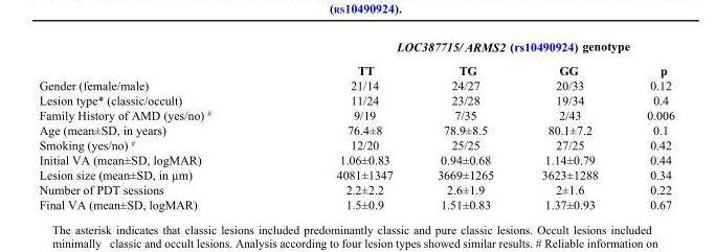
<table><thead><tr><td rowspan="2"></td><td colspan="4">LOC387715/ ARMS2 (rs10490924) genotype</td></tr><tr><td>TT</td><td>TG</td><td>GG</td><td>p</td></tr></thead><tbody><tr><td>Gender (female/male)</td><td>21/14</td><td>24/27</td><td>20/33</td><td>0.12</td></tr><tr><td>Lesion type* (classic/occult)</td><td>11/24</td><td>23/28</td><td>19/34</td><td>0.4</td></tr><tr><td>Family History of AMD (yes/no) <sup>#</sup></td><td>9/19</td><td>7/35</td><td>2/43</td><td>0.006</td></tr><tr><td>Age (mean±SD, in years)</td><td>76.4±8</td><td>78.9±8.5</td><td>80.1±7.2</td><td>0.1</td></tr><tr><td>Smoking (yes/no) <sup>#</sup></td><td>12/20</td><td>25/25</td><td>27/25</td><td>0.42</td></tr><tr><td>Initial VA (mean±SD, logMAR)</td><td>1.06±0.83</td><td>0.94±0.68</td><td>1.14±0.79</td><td>0.44</td></tr><tr><td>Lesion size (mean±SD, in µm)</td><td>4081±1347</td><td>3669±1265</td><td>3623±1288</td><td>0.34</td></tr><tr><td>Number of PDT sessions</td><td>2.2±2.2</td><td>2.6±1.9</td><td>2±1.6</td><td>0.22</td></tr><tr><td>Final VA (mean±SD, logMAR)</td><td>1.5±0.9</td><td>1.51±0.83</td><td>1.37±0.93</td><td>0.67</td></tr></tbody></table>